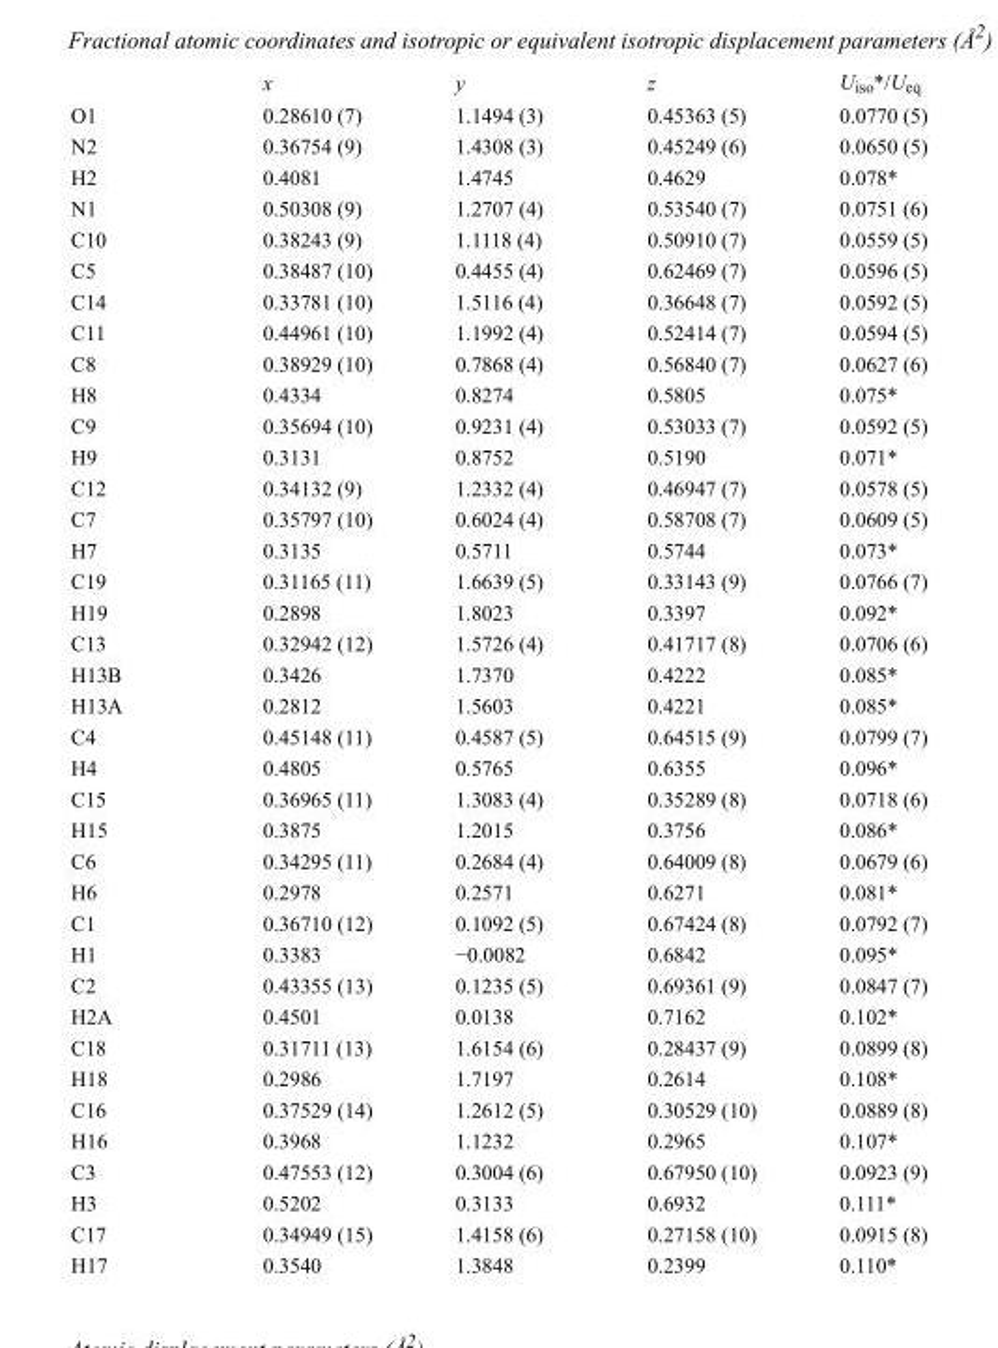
<table><thead><tr><td></td><td>x</td><td>y</td><td>z</td><td>U<sub>iso</sub>*/U<sub>eq</sub></td></tr></thead><tbody><tr><td>O1</td><td>0.28610 (7)</td><td>1.1494 (3)</td><td>0.45363 (5)</td><td>0.0770 (5)</td></tr><tr><td>N2</td><td>0.36754 (9)</td><td>1.4308 (3)</td><td>0.45249 (6)</td><td>0.0650 (5)</td></tr><tr><td>H2</td><td>0.4081</td><td>1.4745</td><td>0.4629</td><td>0.078*</td></tr><tr><td>N1</td><td>0.50308 (9)</td><td>1.2707 (4)</td><td>0.53540 (7)</td><td>0.0751 (6)</td></tr><tr><td>C10</td><td>0.38243 (9)</td><td>1.1118 (4)</td><td>0.50910 (7)</td><td>0.0559 (5)</td></tr><tr><td>C5</td><td>0.38487 (10)</td><td>0.4455 (4)</td><td>0.62469 (7)</td><td>0.0596 (5)</td></tr><tr><td>C14</td><td>0.33781 (10)</td><td>1.5116 (4)</td><td>0.36648 (7)</td><td>0.0592 (5)</td></tr><tr><td>C11</td><td>0.44961 (10)</td><td>1.1992 (4)</td><td>0.52414 (7)</td><td>0.0594 (5)</td></tr><tr><td>C8</td><td>0.38929 (10)</td><td>0.7868 (4)</td><td>0.56840 (7)</td><td>0.0627 (6)</td></tr><tr><td>H8</td><td>0.4334</td><td>0.8274</td><td>0.5805</td><td>0.075*</td></tr><tr><td>C9</td><td>0.35694 (10)</td><td>0.9231 (4)</td><td>0.53033 (7)</td><td>0.0592 (5)</td></tr><tr><td>H9</td><td>0.3131</td><td>0.8752</td><td>0.5190</td><td>0.071*</td></tr><tr><td>C12</td><td>0.34132 (9)</td><td>1.2332 (4)</td><td>0.46947 (7)</td><td>0.0578 (5)</td></tr><tr><td>C7</td><td>0.35797 (10)</td><td>0.6024 (4)</td><td>0.58708 (7)</td><td>0.0609 (5)</td></tr><tr><td>H7</td><td>0.3135</td><td>0.5711</td><td>0.5744</td><td>0.073*</td></tr><tr><td>C19</td><td>0.31165 (11)</td><td>1.6639 (5)</td><td>0.33143 (9)</td><td>0.0766 (7)</td></tr><tr><td>H19</td><td>0.2898</td><td>1.8023</td><td>0.3397</td><td>0.092*</td></tr><tr><td>C13</td><td>0.32942 (12)</td><td>1.5726 (4)</td><td>0.41717 (8)</td><td>0.0706 (6)</td></tr><tr><td>H13B</td><td>0.3426</td><td>1.7370</td><td>0.4222</td><td>0.085*</td></tr><tr><td>H13A</td><td>0.2812</td><td>1.5603</td><td>0.4221</td><td>0.085*</td></tr><tr><td>C4</td><td>0.45148 (11)</td><td>0.4587 (5)</td><td>0.64515 (9)</td><td>0.0799 (7)</td></tr><tr><td>H4</td><td>0.4805</td><td>0.5765</td><td>0.6355</td><td>0.096*</td></tr><tr><td>C15</td><td>0.36965 (11)</td><td>1.3083 (4)</td><td>0.35289 (8)</td><td>0.0718 (6)</td></tr><tr><td>H15</td><td>0.3875</td><td>1.2015</td><td>0.3756</td><td>0.086*</td></tr><tr><td>C6</td><td>0.34295 (11)</td><td>0.2684 (4)</td><td>0.64009 (8)</td><td>0.0679 (6)</td></tr><tr><td>H6</td><td>0.2978</td><td>0.2571</td><td>0.6271</td><td>0.081*</td></tr><tr><td>C1</td><td>0.36710 (12)</td><td>0.1092 (5)</td><td>0.67424 (8)</td><td>0.0792 (7)</td></tr><tr><td>H1</td><td>0.3383</td><td>−0.0082</td><td>0.6842</td><td>0.095*</td></tr><tr><td>C2</td><td>0.43355 (13)</td><td>0.1235 (5)</td><td>0.69361 (9)</td><td>0.0847 (7)</td></tr><tr><td>H2A</td><td>0.4501</td><td>0.0138</td><td>0.7162</td><td>0.102*</td></tr><tr><td>C18</td><td>0.31711 (13)</td><td>1.6154 (6)</td><td>0.28437 (9)</td><td>0.0899 (8)</td></tr><tr><td>H18</td><td>0.2986</td><td>1.7197</td><td>0.2614</td><td>0.108*</td></tr><tr><td>C16</td><td>0.37529 (14)</td><td>1.2612 (5)</td><td>0.30529 (10)</td><td>0.0889 (8)</td></tr><tr><td>H16</td><td>0.3968</td><td>1.1232</td><td>0.2965</td><td>0.107*</td></tr><tr><td>C3</td><td>0.47553 (12)</td><td>0.3004 (6)</td><td>0.67950 (10)</td><td>0.0923 (9)</td></tr><tr><td>H3</td><td>0.5202</td><td>0.3133</td><td>0.6932</td><td>0.111*</td></tr><tr><td>C17</td><td>0.34949 (15)</td><td>1.4158 (6)</td><td>0.27158 (10)</td><td>0.0915 (8)</td></tr><tr><td>H17</td><td>0.3540</td><td>1.3848</td><td>0.2399</td><td>0.110*</td></tr></tbody></table>